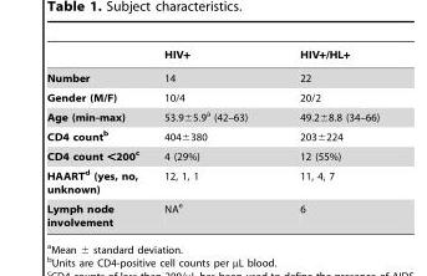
<table><thead><tr><td></td><td>HIV+</td><td>HIV+/HL+</td></tr></thead><tbody><tr><td>Number</td><td>14</td><td>22</td></tr><tr><td>Gender (M/F)</td><td>10/4</td><td>20/2</td></tr><tr><td>Age (min-max)</td><td>53.9±5.9<sup>a</sup> (42–63)</td><td>49.2±8.8 (34–66)</td></tr><tr><td>CD4 countb</td><td>404±380</td><td>203±224</td></tr><tr><td>CD4 count &lt;200c</td><td>4 (29%)</td><td>12 (55%)</td></tr><tr><td>HAARTd (yes, no, unknown)</td><td>12, 1, 1</td><td>11, 4, 7</td></tr><tr><td>Lymph node involvement</td><td>NA<sup>e</sup></td><td>6</td></tr></tbody></table>